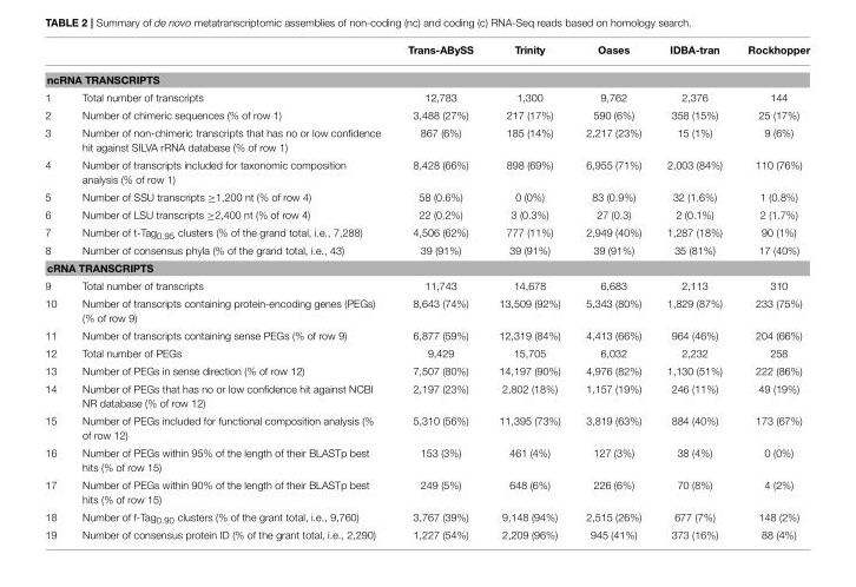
<table><thead><tr><td></td><td></td><td>Trans-ABySS</td><td>Trinity</td><td>Oases</td><td>IDBA-tran</td><td>Rockhopper</td></tr></thead><tbody><tr><td colspan="7">ncRNA TRANSCRIPTS</td></tr><tr><td>1</td><td>Total number of transcripts</td><td>12,783</td><td>1,300</td><td>9,762</td><td>2,376</td><td>144</td></tr><tr><td>2</td><td>Number of chimeric sequences (% of row 1)</td><td>3,488 (27%)</td><td>217 (17%)</td><td>590 (6%)</td><td>358 (15%)</td><td>25 (17%)</td></tr><tr><td>3</td><td>Number of non-chimeric transcripts that has no or low confidence hit against SILVA rRNA database (% of row 1)</td><td>867 (6%)</td><td>185 (14%)</td><td>2,217 (23%)</td><td>15 (1%)</td><td>9 (6%)</td></tr><tr><td>4</td><td>Number of transcripts included for taxonomic composition analysis (% of row 1)</td><td>8,428 (66%)</td><td>898 (69%)</td><td>6,955 (71%)</td><td>2,003 (84%)</td><td>110 (76%)</td></tr><tr><td>5</td><td>Number of SSU transcripts ≥1,200 nt (% of row 4)</td><td>58 (0.6%)</td><td>0 (0%)</td><td>83 (0.9%)</td><td>32 (1.6%)</td><td>1 (0.8%)</td></tr><tr><td>6</td><td>Number of LSU transcripts ≥2,400 nt (% of row 4)</td><td>22 (0.2%)</td><td>3 (0.3%)</td><td>27 (0.3)</td><td>2 (0.1%)</td><td>2 (1.7%)</td></tr><tr><td>7</td><td>Number of t-Tag<sub>0.95</sub> clusters (% of the grand total, i.e., 7,288)</td><td>4,506 (62%)</td><td>777 (11%)</td><td>2,949 (40%)</td><td>1,287 (18%)</td><td>90 (1%)</td></tr><tr><td>8</td><td>Number of consensus phyla (% of the grand total, i.e., 43)</td><td>39 (91%)</td><td>39 (91%)</td><td>39 (91%)</td><td>35 (81%)</td><td>17 (40%)</td></tr><tr><td colspan="7">cRNA TRANSCRIPTS</td></tr><tr><td>9</td><td>Total number of transcripts</td><td>11,743</td><td>14,678</td><td>6,683</td><td>2,113</td><td>310</td></tr><tr><td>10</td><td>Number of transcripts containing protein-encoding genes (PEGs) (% of row 9)</td><td>8,643 (74%)</td><td>13,509 (92%)</td><td>5,343 (80%)</td><td>1,829 (87%)</td><td>233 (75%)</td></tr><tr><td>11</td><td>Number of transcripts containing sense PEGs (% of row 9)</td><td>6,877 (59%)</td><td>12,319 (84%)</td><td>4,413 (66%)</td><td>964 (46%)</td><td>204 (66%)</td></tr><tr><td>12</td><td>Total number of PEGs</td><td>9,429</td><td>15,705</td><td>6,032</td><td>2,232</td><td>258</td></tr><tr><td>13</td><td>Number of PEGs in sense direction (% of row 12)</td><td>7,507 (80%)</td><td>14,197 (90%)</td><td>4,976 (82%)</td><td>1,130 (51%)</td><td>222 (86%)</td></tr><tr><td>14</td><td>Number of PEGs that has no or low confidence hit against NCBI NR database (% of row 12)</td><td>2,197 (23%)</td><td>2,802 (18%)</td><td>1,157 (19%)</td><td>246 (11%)</td><td>49 (19%)</td></tr><tr><td>15</td><td>Number of PEGs included for functional composition analysis (% of row 12)</td><td>5,310 (56%)</td><td>11,395 (73%)</td><td>3,819 (63%)</td><td>884 (40%)</td><td>173 (67%)</td></tr><tr><td>16</td><td>Number of PEGs within 95% of the length of their BLASTp best hits (% of row 15)</td><td>153 (3%)</td><td>461 (4%)</td><td>127 (3%)</td><td>38 (4%)</td><td>0 (0%)</td></tr><tr><td>17</td><td>Number of PEGs within 90% of the length of their BLASTp best hits (% of row 15)</td><td>249 (5%)</td><td>648 (6%)</td><td>226 (6%)</td><td>70 (8%)</td><td>4 (2%)</td></tr><tr><td>18</td><td>Number of f-Tag<sub>0.90</sub> clusters (% of the grant total, i.e., 9,760)</td><td>3,767 (39%)</td><td>9,148 (94%)</td><td>2,515 (26%)</td><td>677 (7%)</td><td>148 (2%)</td></tr><tr><td>19</td><td>Number of consensus protein ID (% of the grant total, i.e., 2,290)</td><td>1,227 (54%)</td><td>2,209 (96%)</td><td>945 (41%)</td><td>373 (16%)</td><td>88 (4%)</td></tr></tbody></table>